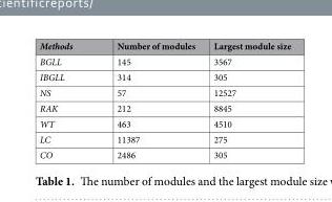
<table><thead><tr><td>Methods</td><td>Number of modules</td><td>Largest module size</td></tr></thead><tbody><tr><td>BGLL</td><td>145</td><td>3567</td></tr><tr><td>IBGLL</td><td>314</td><td>305</td></tr><tr><td>NS</td><td>57</td><td>12527</td></tr><tr><td>RAK</td><td>212</td><td>8845</td></tr><tr><td>WT</td><td>463</td><td>4510</td></tr><tr><td>LC</td><td>11387</td><td>275</td></tr><tr><td>CO</td><td>2486</td><td>305</td></tr></tbody></table>